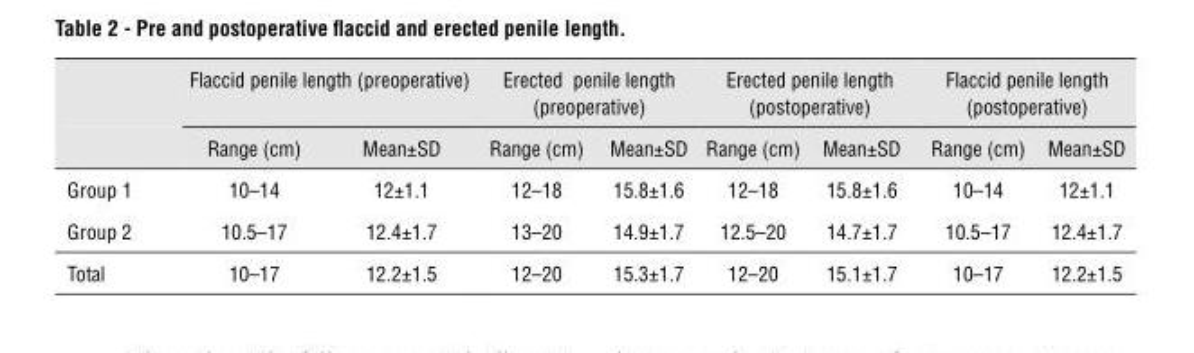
<table><thead><tr><td rowspan="2"></td><td colspan="2">Flaccid penile length (preoperative)</td><td colspan="2">Erected penile length (preoperative)</td><td colspan="2">Erected penile length (postoperative)</td><td colspan="2">Flaccid penile length (postoperative)</td></tr><tr><td>Range (cm)</td><td>Mean±SD</td><td>Range (cm)</td><td>Mean±SD</td><td>Range (cm)</td><td>Mean±SD</td><td>Range (cm)</td><td>Mean±SD</td></tr></thead><tbody><tr><td>Group 1</td><td>10–14</td><td>12±1.1</td><td>12–18</td><td>15.8±1.6</td><td>12–18</td><td>15.8±1.6</td><td>10–14</td><td>12±1.1</td></tr><tr><td>Group 2</td><td>10.5–17</td><td>12.4±1.7</td><td>13–20</td><td>14.9±1.7</td><td>12.5–20</td><td>14.7±1.7</td><td>10.5–17</td><td>12.4±1.7</td></tr><tr><td>Total</td><td>10–17</td><td>12.2±1.5</td><td>12–20</td><td>15.3±1.7</td><td>12–20</td><td>15.1±1.7</td><td>10–17</td><td>12.2±1.5</td></tr></tbody></table>